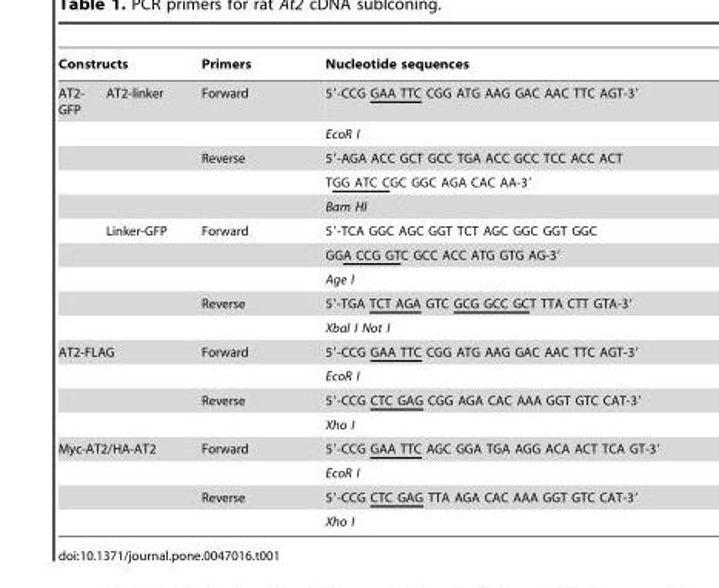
<table><thead><tr><td colspan="2">Constructs</td><td rowspan="2">Primers Forward</td><td rowspan="2">Nucleotide sequences 5′-CCG GAA TTC CGG ATG AAG GAC AAC TTC AGT-3′</td></tr><tr><td>AT2- GFP</td><td>AT2-linker</td></tr></thead><tbody><tr><td></td><td></td><td></td><td>EcoR I</td></tr><tr><td></td><td></td><td>Reverse</td><td>5′-AGA ACC GCT GCC TGA ACC GCC TCC ACC ACT</td></tr><tr><td></td><td></td><td></td><td>TGG ATC CGC GGC AGA CAC AA-3′</td></tr><tr><td></td><td></td><td></td><td>Bam HI</td></tr><tr><td></td><td>Linker-GFP</td><td>Forward</td><td>5′-TCA GGC AGC GGT TCT AGC GGC GGT GGC</td></tr><tr><td></td><td></td><td></td><td>GGA CCG GTC GCC ACC ATG GTG AG-3′</td></tr><tr><td></td><td></td><td></td><td>Age I</td></tr><tr><td></td><td></td><td>Reverse</td><td>5′-TGA TCT AGA GTC GCG GCC GCT TTA CTT GTA-3′</td></tr><tr><td></td><td></td><td></td><td>Xbal I Not I</td></tr><tr><td rowspan="4" colspan="2">AT2-FLAG</td><td>Forward</td><td>5′-CCG GAA TTC CGG ATG AAG GAC AAC TTC AGT-3′</td></tr><tr><td></td><td>EcoR I</td></tr><tr><td>Reverse</td><td>5′-CCG CTC GAG CGG AGA CAC AAA GGT GTC CAT-3′</td></tr><tr><td></td><td>Xho I</td></tr><tr><td rowspan="4" colspan="2">Myc-AT2/HA-AT2</td><td>Forward</td><td>5′-CCG GAA TTC AGC GGA TGA AGG ACA ACT TCA GT-3′</td></tr><tr><td></td><td>EcoR I</td></tr><tr><td>Reverse</td><td>5′-CCG CTC GAG TTA AGA CAC AAA GGT GTC CAT-3′</td></tr><tr><td></td><td>Xho I</td></tr></tbody></table>